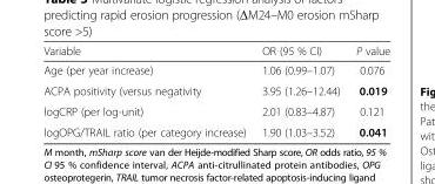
<table><thead><tr><td>Variable</td><td>OR (95 % CI)</td><td>P value</td></tr></thead><tbody><tr><td>Age (per year increase)</td><td>1.06 (0.99–1.07)</td><td>0.076</td></tr><tr><td>ACPA positivity (versus negativity</td><td>3.95 (1.26–12.44)</td><td>0.019</td></tr><tr><td>logCRP (per log-unit)</td><td>2.01 (0.83–4.87)</td><td>0.121</td></tr><tr><td>logOPG/TRAIL ratio (per category increase)</td><td>1.90 (1.03–3.52)</td><td>0.041</td></tr></tbody></table>